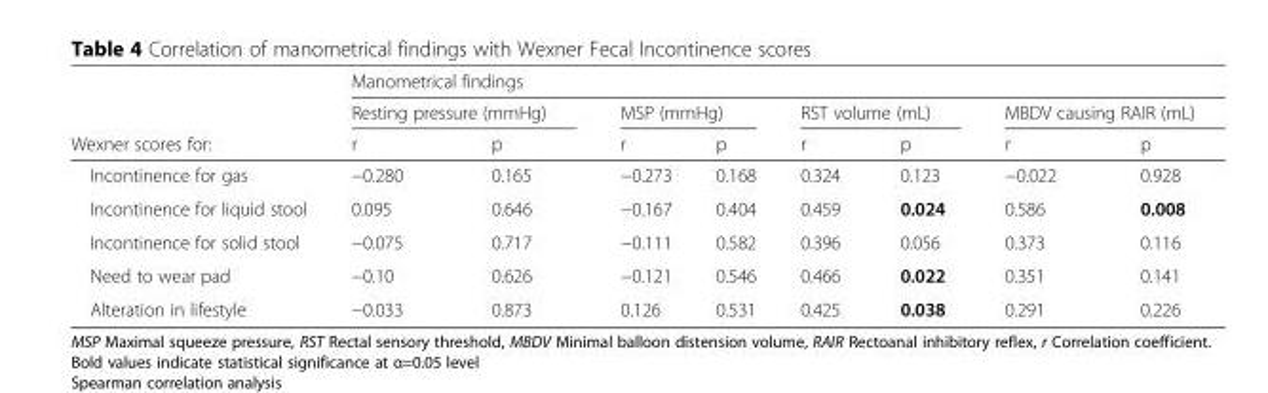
<table><thead><tr><td rowspan="3">Wexner scores for:</td><td colspan="8">Manometrical findings</td></tr><tr><td colspan="2">Resting pressure (mmHg)</td><td colspan="2">MSP (mmHg)</td><td colspan="2">RST volume (mL)</td><td colspan="2">MBDV causing RAIR (mL)</td></tr><tr><td>r</td><td>p</td><td>r</td><td>p</td><td>r</td><td>p</td><td>r</td><td>p</td></tr></thead><tbody><tr><td>Incontinence for gas</td><td>−0.280</td><td>0.165</td><td>−0.273</td><td>0.168</td><td>0.324</td><td>0.123</td><td>−0.022</td><td>0.928</td></tr><tr><td>Incontinence for liquid stool</td><td>0.095</td><td>0.646</td><td>−0.167</td><td>0.404</td><td>0.459</td><td>0.024</td><td>0.586</td><td>0.008</td></tr><tr><td>Incontinence for solid stool</td><td>−0.075</td><td>0.717</td><td>−0.111</td><td>0.582</td><td>0.396</td><td>0.056</td><td>0.373</td><td>0.116</td></tr><tr><td>Need to wear pad</td><td>−0.10</td><td>0.626</td><td>−0.121</td><td>0.546</td><td>0.466</td><td>0.022</td><td>0.351</td><td>0.141</td></tr><tr><td>Alteration in lifestyle</td><td>−0.033</td><td>0.873</td><td>0.126</td><td>0.531</td><td>0.425</td><td>0.038</td><td>0.291</td><td>0.226</td></tr></tbody></table>